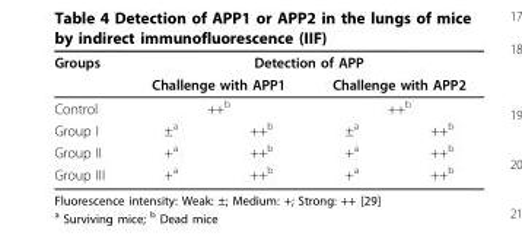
<table><thead><tr><td rowspan="4">Groups Control Group I</td><td colspan="4">Detection of APP</td></tr><tr><td rowspan="2" colspan="2">Challenge with APP1 ++<sup>b</sup></td><td rowspan="2" colspan="2">Challenge with APP2 ++<sup>b</sup></td></tr><tr></tr><tr><td>±<sup>a</sup></td><td>++<sup>b</sup></td><td>±<sup>a</sup></td><td>++<sup>b</sup></td></tr></thead><tbody><tr><td>Group II</td><td>+<sup>a</sup></td><td>++<sup>b</sup></td><td>+<sup>a</sup></td><td>++<sup>b</sup></td></tr><tr><td>Group III</td><td>+<sup>a</sup></td><td>++<sup>b</sup></td><td>+<sup>a</sup></td><td>++<sup>b</sup></td></tr></tbody></table>